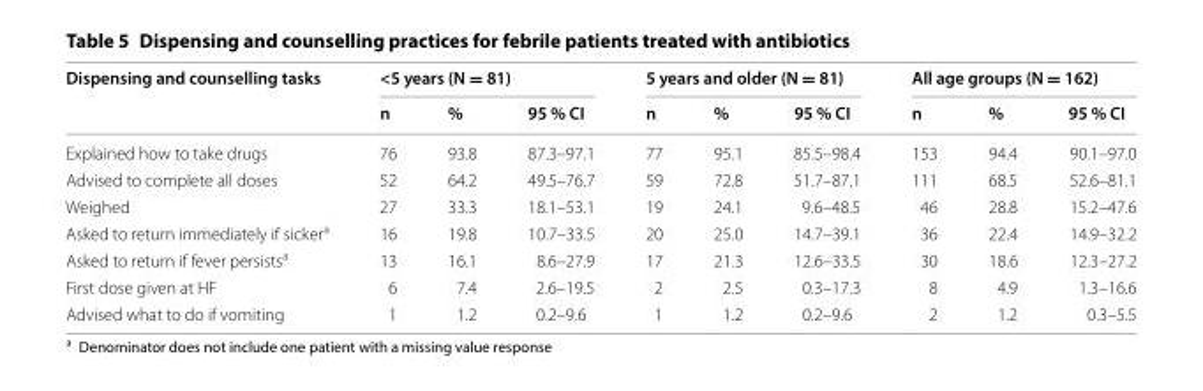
<table><thead><tr><td rowspan="2">Dispensing and counselling tasks</td><td colspan="3">&lt;5 years (N = 81)</td><td colspan="3">5 years and older (N = 81)</td><td colspan="3">All age groups (N = 162)</td></tr><tr><td>n</td><td>%</td><td>95 % CI</td><td>n</td><td>%</td><td>95 % CI</td><td>n</td><td>%</td><td>95 % CI</td></tr></thead><tbody><tr><td>Explained how to take drugs</td><td>76</td><td>93.8</td><td>87.3–97.1</td><td>77</td><td>95.1</td><td>85.5–98.4</td><td>153</td><td>94.4</td><td>90.1–97.0</td></tr><tr><td>Advised to complete all doses</td><td>52</td><td>64.2</td><td>49.5–76.7</td><td>59</td><td>72.8</td><td>51.7–87.1</td><td>111</td><td>68.5</td><td>52.6–81.1</td></tr><tr><td>Weighed</td><td>27</td><td>33.3</td><td>18.1–53.1</td><td>19</td><td>24.1</td><td>9.6–48.5</td><td>46</td><td>28.8</td><td>15.2–47.6</td></tr><tr><td>Asked to return immediately if sicker<sup>a</sup></td><td>16</td><td>19.8</td><td>10.7–33.5</td><td>20</td><td>25.0</td><td>14.7–39.1</td><td>36</td><td>22.4</td><td>14.9–32.2</td></tr><tr><td>Asked to return if fever persists<sup>a</sup></td><td>13</td><td>16.1</td><td>8.6–27.9</td><td>17</td><td>21.3</td><td>12.6–33.5</td><td>30</td><td>18.6</td><td>12.3–27.2</td></tr><tr><td>First dose given at HF</td><td>6</td><td>7.4</td><td>2.6–19.5</td><td>2</td><td>2.5</td><td>0.3–17.3</td><td>8</td><td>4.9</td><td>1.3–16.6</td></tr><tr><td>Advised what to do if vomiting</td><td>1</td><td>1.2</td><td>0.2–9.6</td><td>1</td><td>1.2</td><td>0.2–9.6</td><td>2</td><td>1.2</td><td>0.3–5.5</td></tr></tbody></table>